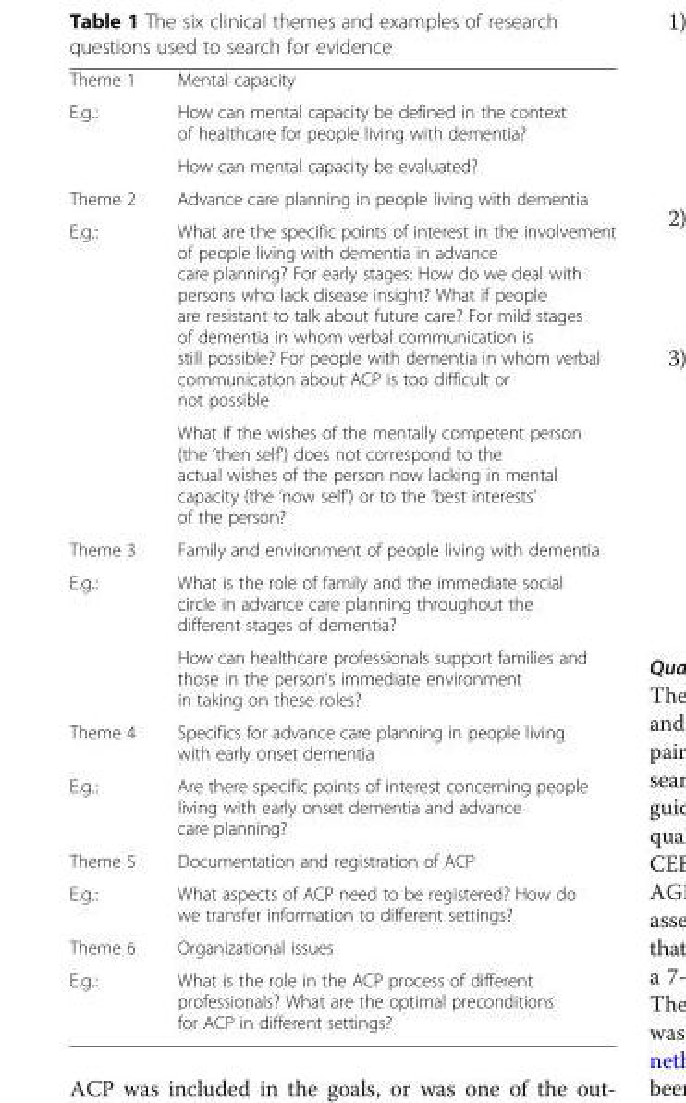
<table><tbody><tr><td>Theme 1</td><td>Mental capacity</td></tr><tr><td rowspan="2">E.g.:</td><td>How can mental capacity be defined in the context of healthcare for people living with dementia?</td></tr><tr><td>How can mental capacity be evaluated?</td></tr><tr><td>Theme 2</td><td>Advance care planning in people living with dementia</td></tr><tr><td rowspan="2">E.g.:</td><td>What are the specific points of interest in the involvement of people living with dementia in advance care planning? For early stages: How do we deal with persons who lack disease insight? What if people are resistant to talk about future care? For mild stages of dementia in whom verbal communication is still possible? For people with dementia in whom verbal communication about ACP is too difficult or not possible</td></tr><tr><td>What if the wishes of the mentally competent person (the ‘then self’) does not correspond to the actual wishes of the person now lacking in mental capacity (the ‘now self’) or to the ‘best interests’ of the person?</td></tr><tr><td>Theme 3</td><td>Family and environment of people living with dementia</td></tr><tr><td rowspan="2">E.g.:</td><td>What is the role of family and the immediate social circle in advance care planning throughout the different stages of dementia?</td></tr><tr><td>How can healthcare professionals support families and those in the person’s immediate environment in taking on these roles?</td></tr><tr><td>Theme 4</td><td>Specifics for advance care planning in people living with early onset dementia</td></tr><tr><td>E.g.:</td><td>Are there specific points of interest concerning people living with early onset dementia and advance care planning?</td></tr><tr><td>Theme 5</td><td>Documentation and registration of ACP</td></tr><tr><td>E.g.:</td><td>What aspects of ACP need to be registered? How do we transfer information to different settings?</td></tr><tr><td>Theme 6</td><td>Organizational issues</td></tr><tr><td>E.g.:</td><td>What is the role in the ACP process of different professionals? What are the optimal preconditions for ACP in different settings?</td></tr></tbody></table>